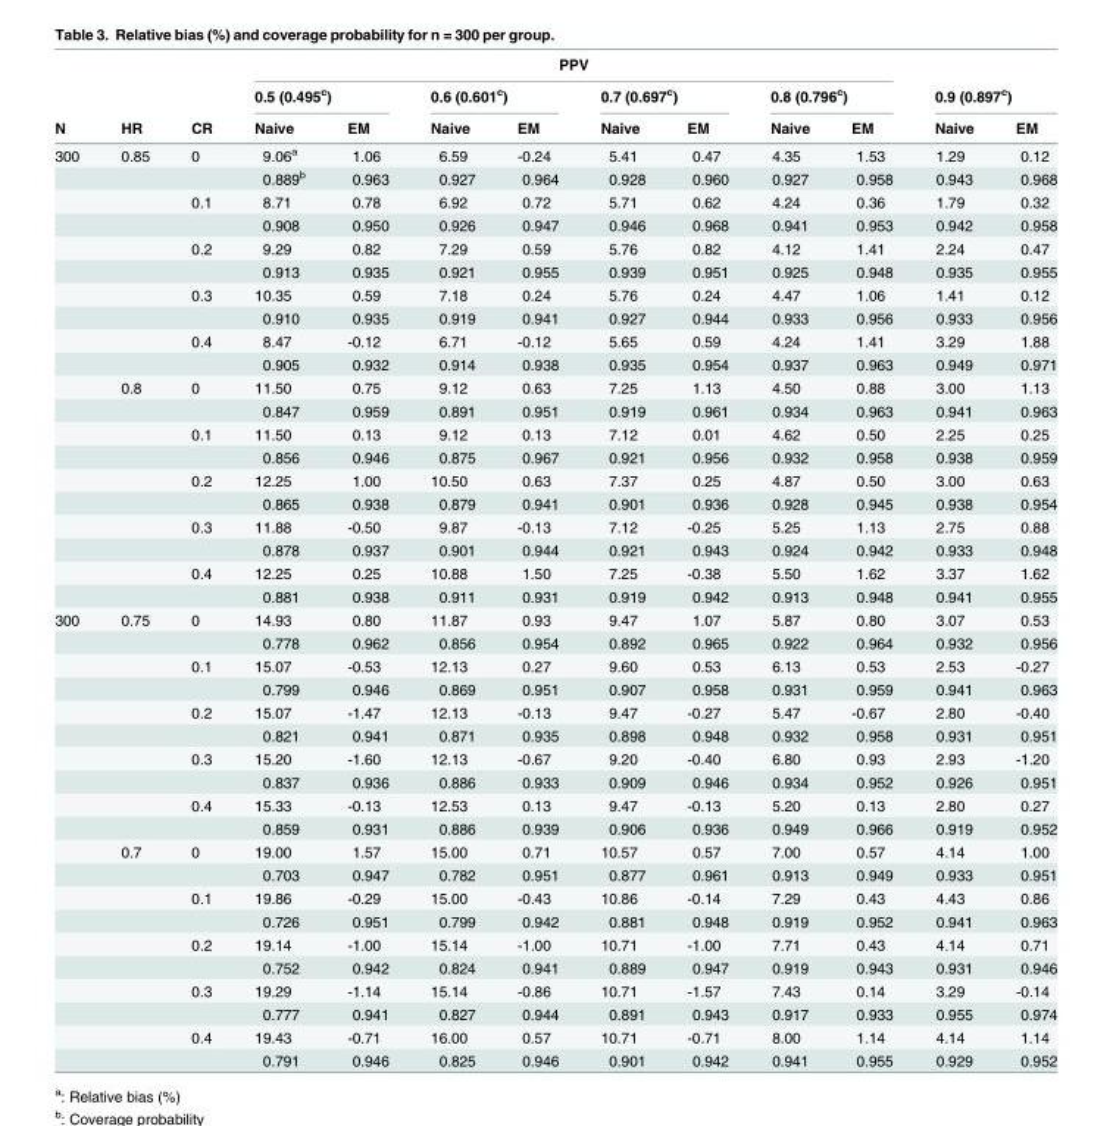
<table><thead><tr><td rowspan="3">N</td><td rowspan="3">HR</td><td rowspan="3">CR</td><td colspan="8">PPV</td><td></td><td></td></tr><tr><td colspan="2">0.5 (0.495<sup>c</sup>)</td><td colspan="2">0.6 (0.601<sup>c</sup>)</td><td colspan="2">0.7 (0.697<sup>c</sup>)</td><td colspan="2">0.8 (0.796<sup>c</sup>)</td><td colspan="2">0.9 (0.897<sup>c</sup>)</td></tr><tr><td>Naive</td><td>EM</td><td>Naive</td><td>EM</td><td>Naive</td><td>EM</td><td>Naive</td><td>EM</td><td>Naive</td><td>EM</td></tr></thead><tbody><tr><td rowspan="20">300</td><td>0.85</td><td>0</td><td>9.06<sup>a</sup></td><td>1.06</td><td>6.59</td><td>-0.24</td><td>5.41</td><td>0.47</td><td>4.35</td><td>1.53</td><td>1.29</td><td>0.12</td></tr><tr><td></td><td></td><td>0.889<sup>b</sup></td><td>0.963</td><td>0.927</td><td>0.964</td><td>0.928</td><td>0.960</td><td>0.927</td><td>0.958</td><td>0.943</td><td>0.968</td></tr><tr><td></td><td>0.1</td><td>8.71</td><td>0.78</td><td>6.92</td><td>0.72</td><td>5.71</td><td>0.62</td><td>4.24</td><td>0.36</td><td>1.79</td><td>0.32</td></tr><tr><td></td><td></td><td>0.908</td><td>0.950</td><td>0.926</td><td>0.947</td><td>0.946</td><td>0.968</td><td>0.941</td><td>0.953</td><td>0.942</td><td>0.958</td></tr><tr><td></td><td>0.2</td><td>9.29</td><td>0.82</td><td>7.29</td><td>0.59</td><td>5.76</td><td>0.82</td><td>4.12</td><td>1.41</td><td>2.24</td><td>0.47</td></tr><tr><td></td><td></td><td>0.913</td><td>0.935</td><td>0.921</td><td>0.955</td><td>0.939</td><td>0.951</td><td>0.925</td><td>0.948</td><td>0.935</td><td>0.955</td></tr><tr><td></td><td>0.3</td><td>10.35</td><td>0.59</td><td>7.18</td><td>0.24</td><td>5.76</td><td>0.24</td><td>4.47</td><td>1.06</td><td>1.41</td><td>0.12</td></tr><tr><td></td><td></td><td>0.910</td><td>0.935</td><td>0.919</td><td>0.941</td><td>0.927</td><td>0.944</td><td>0.933</td><td>0.956</td><td>0.933</td><td>0.956</td></tr><tr><td></td><td>0.4</td><td>8.47</td><td>-0.12</td><td>6.71</td><td>-0.12</td><td>5.65</td><td>0.59</td><td>4.24</td><td>1.41</td><td>3.29</td><td>1.88</td></tr><tr><td></td><td></td><td>0.905</td><td>0.932</td><td>0.914</td><td>0.938</td><td>0.935</td><td>0.954</td><td>0.937</td><td>0.963</td><td>0.949</td><td>0.971</td></tr><tr><td>0.8</td><td>0</td><td>11.50</td><td>0.75</td><td>9.12</td><td>0.63</td><td>7.25</td><td>1.13</td><td>4.50</td><td>0.88</td><td>3.00</td><td>1.13</td></tr><tr><td></td><td></td><td>0.847</td><td>0.959</td><td>0.891</td><td>0.951</td><td>0.919</td><td>0.961</td><td>0.934</td><td>0.963</td><td>0.941</td><td>0.963</td></tr><tr><td></td><td>0.1</td><td>11.50</td><td>0.13</td><td>9.12</td><td>0.13</td><td>7.12</td><td>0.01</td><td>4.62</td><td>0.50</td><td>2.25</td><td>0.25</td></tr><tr><td></td><td></td><td>0.856</td><td>0.946</td><td>0.875</td><td>0.967</td><td>0.921</td><td>0.956</td><td>0.932</td><td>0.958</td><td>0.938</td><td>0.959</td></tr><tr><td></td><td>0.2</td><td>12.25</td><td>1.00</td><td>10.50</td><td>0.63</td><td>7.37</td><td>0.25</td><td>4.87</td><td>0.50</td><td>3.00</td><td>0.63</td></tr><tr><td></td><td></td><td>0.865</td><td>0.938</td><td>0.879</td><td>0.941</td><td>0.901</td><td>0.936</td><td>0.928</td><td>0.945</td><td>0.938</td><td>0.954</td></tr><tr><td></td><td>0.3</td><td>11.88</td><td>-0.50</td><td>9.87</td><td>-0.13</td><td>7.12</td><td>-0.25</td><td>5.25</td><td>1.13</td><td>2.75</td><td>0.88</td></tr><tr><td></td><td></td><td>0.878</td><td>0.937</td><td>0.901</td><td>0.944</td><td>0.921</td><td>0.943</td><td>0.924</td><td>0.942</td><td>0.933</td><td>0.948</td></tr><tr><td></td><td>0.4</td><td>12.25</td><td>0.25</td><td>10.88</td><td>1.50</td><td>7.25</td><td>-0.38</td><td>5.50</td><td>1.62</td><td>3.37</td><td>1.62</td></tr><tr><td></td><td></td><td>0.881</td><td>0.938</td><td>0.911</td><td>0.931</td><td>0.919</td><td>0.942</td><td>0.913</td><td>0.948</td><td>0.941</td><td>0.955</td></tr><tr><td rowspan="20">300</td><td>0.75</td><td>0</td><td>14.93</td><td>0.80</td><td>11.87</td><td>0.93</td><td>9.47</td><td>1.07</td><td>5.87</td><td>0.80</td><td>3.07</td><td>0.53</td></tr><tr><td></td><td></td><td>0.778</td><td>0.962</td><td>0.856</td><td>0.954</td><td>0.892</td><td>0.965</td><td>0.922</td><td>0.964</td><td>0.932</td><td>0.956</td></tr><tr><td></td><td>0.1</td><td>15.07</td><td>-0.53</td><td>12.13</td><td>0.27</td><td>9.60</td><td>0.53</td><td>6.13</td><td>0.53</td><td>2.53</td><td>-0.27</td></tr><tr><td></td><td></td><td>0.799</td><td>0.946</td><td>0.869</td><td>0.951</td><td>0.907</td><td>0.958</td><td>0.931</td><td>0.959</td><td>0.941</td><td>0.963</td></tr><tr><td></td><td>0.2</td><td>15.07</td><td>-1.47</td><td>12.13</td><td>-0.13</td><td>9.47</td><td>-0.27</td><td>5.47</td><td>-0.67</td><td>2.80</td><td>-0.40</td></tr><tr><td></td><td></td><td>0.821</td><td>0.941</td><td>0.871</td><td>0.935</td><td>0.898</td><td>0.948</td><td>0.932</td><td>0.958</td><td>0.931</td><td>0.951</td></tr><tr><td></td><td>0.3</td><td>15.20</td><td>-1.60</td><td>12.13</td><td>-0.67</td><td>9.20</td><td>-0.40</td><td>6.80</td><td>0.93</td><td>2.93</td><td>-1.20</td></tr><tr><td></td><td></td><td>0.837</td><td>0.936</td><td>0.886</td><td>0.933</td><td>0.909</td><td>0.946</td><td>0.934</td><td>0.952</td><td>0.926</td><td>0.951</td></tr><tr><td></td><td>0.4</td><td>15.33</td><td>-0.13</td><td>12.53</td><td>0.13</td><td>9.47</td><td>-0.13</td><td>5.20</td><td>0.13</td><td>2.80</td><td>0.27</td></tr><tr><td></td><td></td><td>0.859</td><td>0.931</td><td>0.886</td><td>0.939</td><td>0.906</td><td>0.936</td><td>0.949</td><td>0.966</td><td>0.919</td><td>0.952</td></tr><tr><td>0.7</td><td>0</td><td>19.00</td><td>1.57</td><td>15.00</td><td>0.71</td><td>10.57</td><td>0.57</td><td>7.00</td><td>0.57</td><td>4.14</td><td>1.00</td></tr><tr><td></td><td></td><td>0.703</td><td>0.947</td><td>0.782</td><td>0.951</td><td>0.877</td><td>0.961</td><td>0.913</td><td>0.949</td><td>0.933</td><td>0.951</td></tr><tr><td></td><td>0.1</td><td>19.86</td><td>-0.29</td><td>15.00</td><td>-0.43</td><td>10.86</td><td>-0.14</td><td>7.29</td><td>0.43</td><td>4.43</td><td>0.86</td></tr><tr><td></td><td></td><td>0.726</td><td>0.951</td><td>0.799</td><td>0.942</td><td>0.881</td><td>0.948</td><td>0.919</td><td>0.952</td><td>0.941</td><td>0.963</td></tr><tr><td></td><td>0.2</td><td>19.14</td><td>-1.00</td><td>15.14</td><td>-1.00</td><td>10.71</td><td>-1.00</td><td>7.71</td><td>0.43</td><td>4.14</td><td>0.71</td></tr><tr><td></td><td></td><td>0.752</td><td>0.942</td><td>0.824</td><td>0.941</td><td>0.889</td><td>0.947</td><td>0.919</td><td>0.943</td><td>0.931</td><td>0.946</td></tr><tr><td></td><td>0.3</td><td>19.29</td><td>-1.14</td><td>15.14</td><td>-0.86</td><td>10.71</td><td>-1.57</td><td>7.43</td><td>0.14</td><td>3.29</td><td>-0.14</td></tr><tr><td></td><td></td><td>0.777</td><td>0.941</td><td>0.827</td><td>0.944</td><td>0.891</td><td>0.943</td><td>0.917</td><td>0.933</td><td>0.955</td><td>0.974</td></tr><tr><td></td><td>0.4</td><td>19.43</td><td>-0.71</td><td>16.00</td><td>0.57</td><td>10.71</td><td>-0.71</td><td>8.00</td><td>1.14</td><td>4.14</td><td>1.14</td></tr><tr><td></td><td></td><td>0.791</td><td>0.946</td><td>0.825</td><td>0.946</td><td>0.901</td><td>0.942</td><td>0.941</td><td>0.955</td><td>0.929</td><td>0.952</td></tr></tbody></table>